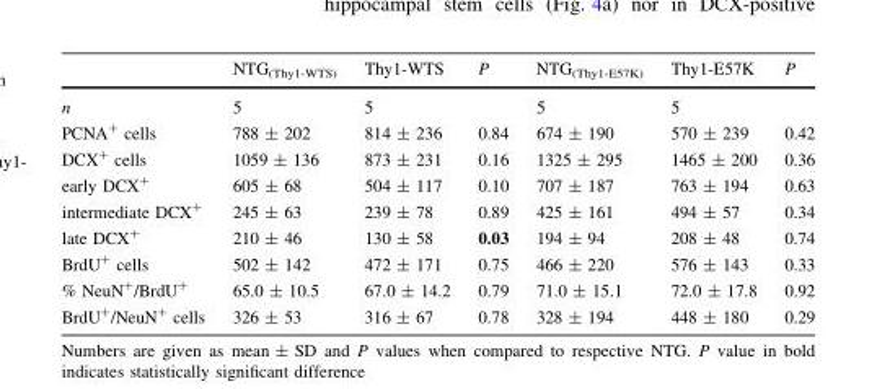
<table><thead><tr><td></td><td>NTG<sub>(Thy1-WTS)</sub></td><td>Thy1-WTS</td><td>P</td><td>NTG<sub>(Thy1-E57K)</sub></td><td>Thy1-E57K</td><td>P</td></tr></thead><tbody><tr><td>n</td><td>5</td><td>5</td><td></td><td>5</td><td>5</td><td></td></tr><tr><td>PCNA<sup>+</sup> cells</td><td>788 ± 202</td><td>814 ± 236</td><td>0.84</td><td>674 ± 190</td><td>570 ± 239</td><td>0.42</td></tr><tr><td>DCX<sup>+</sup> cells</td><td>1059 ± 136</td><td>873 ± 231</td><td>0.16</td><td>1325 ± 295</td><td>1465 ± 200</td><td>0.36</td></tr><tr><td>early DCX<sup>+</sup></td><td>605 ± 68</td><td>504 ± 117</td><td>0.10</td><td>707 ± 187</td><td>763 ± 194</td><td>0.63</td></tr><tr><td>intermediate DCX<sup>+</sup></td><td>245 ± 63</td><td>239 ± 78</td><td>0.89</td><td>425 ± 161</td><td>494 ± 57</td><td>0.34</td></tr><tr><td>late DCX<sup>+</sup></td><td>210 ± 46</td><td>130 ± 58</td><td>0.03</td><td>194 ± 94</td><td>208 ± 48</td><td>0.74</td></tr><tr><td>BrdU<sup>+</sup> cells</td><td>502 ± 142</td><td>472 ± 171</td><td>0.75</td><td>466 ± 220</td><td>576 ± 143</td><td>0.33</td></tr><tr><td>% NeuN<sup>+</sup>/BrdU<sup>+</sup></td><td>65.0 ± 10.5</td><td>67.0 ± 14.2</td><td>0.79</td><td>71.0 ± 15.1</td><td>72.0 ± 17.8</td><td>0.92</td></tr><tr><td>BrdU<sup>+</sup>/NeuN<sup>+</sup> cells</td><td>326 ± 53</td><td>316 ± 67</td><td>0.78</td><td>328 ± 194</td><td>448 ± 180</td><td>0.29</td></tr></tbody></table>